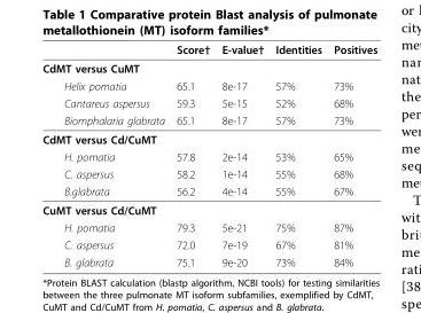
<table><thead><tr><td></td><td>Score†</td><td>E-value†</td><td>Identities</td><td>Positives</td></tr></thead><tbody><tr><td colspan="5">CdMT versus CuMT</td></tr><tr><td>Helix pomatia</td><td>65.1</td><td>8e-17</td><td>57%</td><td>73%</td></tr><tr><td>Cantareus aspersus</td><td>59.3</td><td>5e-15</td><td>52%</td><td>68%</td></tr><tr><td>Biomphalaria glabrata</td><td>65.1</td><td>8e-17</td><td>57%</td><td>73%</td></tr><tr><td colspan="5">CdMT versus Cd/CuMT</td></tr><tr><td>H. pomatia</td><td>57.8</td><td>2e-14</td><td>53%</td><td>65%</td></tr><tr><td>C. aspersus</td><td>58.2</td><td>1e-14</td><td>55%</td><td>68%</td></tr><tr><td>B.glabrata</td><td>56.2</td><td>4e-14</td><td>55%</td><td>67%</td></tr><tr><td colspan="5">CuMT versus Cd/CuMT</td></tr><tr><td>H. pomatia</td><td>79.3</td><td>5e-21</td><td>75%</td><td>87%</td></tr><tr><td>C. aspersus</td><td>72.0</td><td>7e-19</td><td>67%</td><td>81%</td></tr><tr><td>B. glabrata</td><td>75.1</td><td>9e-20</td><td>73%</td><td>84%</td></tr></tbody></table>